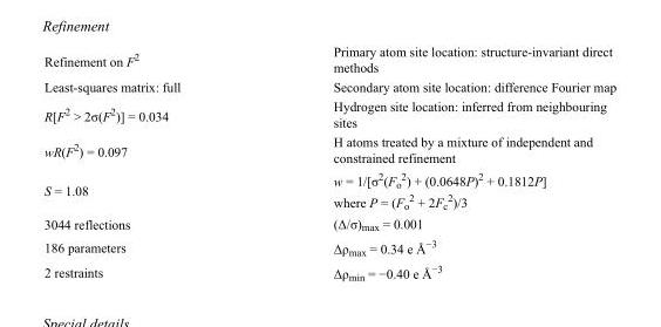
<table><tbody><tr><td>Refinement on F<sup>2</sup></td><td>Primary atom site location: structure-invariant direct methods</td></tr><tr><td>Least-squares matrix: full</td><td>Secondary atom site location: difference Fourier map</td></tr><tr><td>R[F<sup>2</sup> &gt; 2σ(F<sup>2</sup>)] = 0.034</td><td>Hydrogen site location: inferred from neighbouring sites</td></tr><tr><td>wR(F<sup>2</sup>) = 0.097</td><td>H atoms treated by a mixture of independent and constrained refinement</td></tr><tr><td>S = 1.08</td><td>w = 1/[σ<sup>2</sup>(F<sub>o</sub> <sup>2</sup>) + (0.0648P)<sup>2</sup> + 0.1812P] where P = (F<sub>o</sub> <sup>2</sup> + 2F<sub>c</sub> <sup>2</sup>)/3</td></tr><tr><td>3044 reflections</td><td>(Δ/σ)<sub>max</sub> = 0.001</td></tr><tr><td>186 parameters</td><td>Δρ<sub>max</sub> = 0.34 e Å<sup>−3</sup></td></tr><tr><td>2 restraints</td><td>Δρ<sub>min</sub> = −0.40 e Å<sup>−3</sup></td></tr></tbody></table>